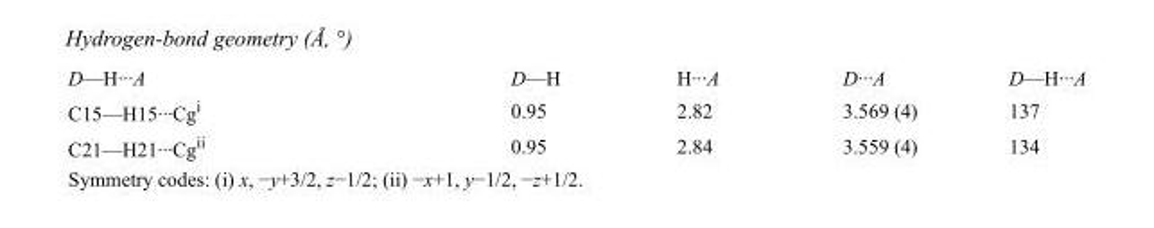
<table><tbody><tr><td>D—H···A</td><td>D—H</td><td>H···A</td><td>D···A</td><td>D—H···A</td></tr><tr><td>C15—H15···Cg<sup>i</sup></td><td>0.95</td><td>2.82</td><td>3.569 (4)</td><td>137</td></tr><tr><td>C21—H21···Cg<sup>ii</sup></td><td>0.95</td><td>2.84</td><td>3.559 (4)</td><td>134</td></tr></tbody></table>